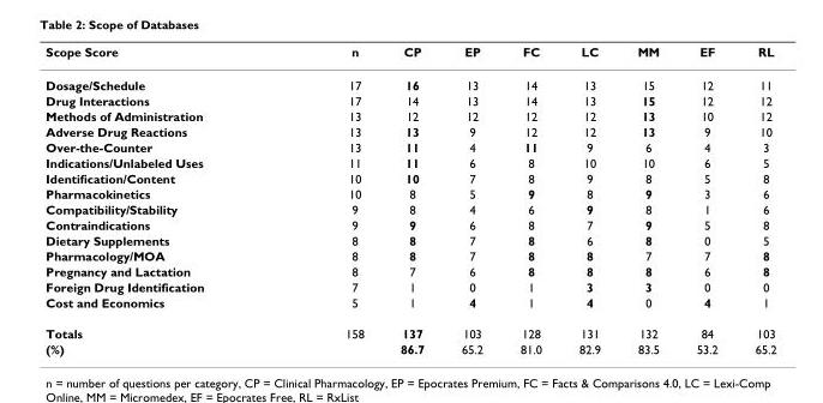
<table><thead><tr><td>Scope Score</td><td>n</td><td>CP</td><td>EP</td><td>FC</td><td>LC</td><td>MM</td><td>EF</td><td>RL</td></tr></thead><tbody><tr><td>Dosage/Schedule</td><td>17</td><td>16</td><td>13</td><td>14</td><td>13</td><td>15</td><td>12</td><td>11</td></tr><tr><td>Drug Interactions</td><td>17</td><td>14</td><td>13</td><td>14</td><td>13</td><td>15</td><td>12</td><td>12</td></tr><tr><td>Methods of Administration</td><td>13</td><td>12</td><td>12</td><td>12</td><td>12</td><td>13</td><td>10</td><td>12</td></tr><tr><td>Adverse Drug Reactions</td><td>13</td><td>13</td><td>9</td><td>12</td><td>12</td><td>13</td><td>9</td><td>10</td></tr><tr><td>Over-the-Counter</td><td>13</td><td>11</td><td>4</td><td>11</td><td>9</td><td>6</td><td>4</td><td>3</td></tr><tr><td>Indications/Unlabeled Uses</td><td>11</td><td>11</td><td>6</td><td>8</td><td>10</td><td>10</td><td>6</td><td>5</td></tr><tr><td>Identification/Content</td><td>10</td><td>10</td><td>7</td><td>8</td><td>9</td><td>8</td><td>5</td><td>8</td></tr><tr><td>Pharmacokinetics</td><td>10</td><td>8</td><td>5</td><td>9</td><td>8</td><td>9</td><td>3</td><td>6</td></tr><tr><td>Compatibility/Stability</td><td>9</td><td>8</td><td>4</td><td>6</td><td>9</td><td>8</td><td>1</td><td>6</td></tr><tr><td>Contraindications</td><td>9</td><td>9</td><td>6</td><td>8</td><td>7</td><td>9</td><td>5</td><td>8</td></tr><tr><td>Dietary Supplements</td><td>8</td><td>8</td><td>7</td><td>8</td><td>6</td><td>8</td><td>0</td><td>5</td></tr><tr><td>Pharmacology/MOA</td><td>8</td><td>8</td><td>7</td><td>8</td><td>8</td><td>7</td><td>7</td><td>8</td></tr><tr><td>Pregnancy and Lactation</td><td>8</td><td>7</td><td>6</td><td>8</td><td>8</td><td>8</td><td>6</td><td>8</td></tr><tr><td>Foreign Drug Identification</td><td>7</td><td>1</td><td>0</td><td>1</td><td>3</td><td>3</td><td>0</td><td>0</td></tr><tr><td>Cost and Economics</td><td>5</td><td>1</td><td>4</td><td>1</td><td>4</td><td>0</td><td>4</td><td>1</td></tr><tr><td>Totals</td><td>158</td><td>137</td><td>103</td><td>128</td><td>131</td><td>132</td><td>84</td><td>103</td></tr><tr><td>(%)</td><td></td><td>86.7</td><td>65.2</td><td>81.0</td><td>82.9</td><td>83.5</td><td>53.2</td><td>65.2</td></tr></tbody></table>